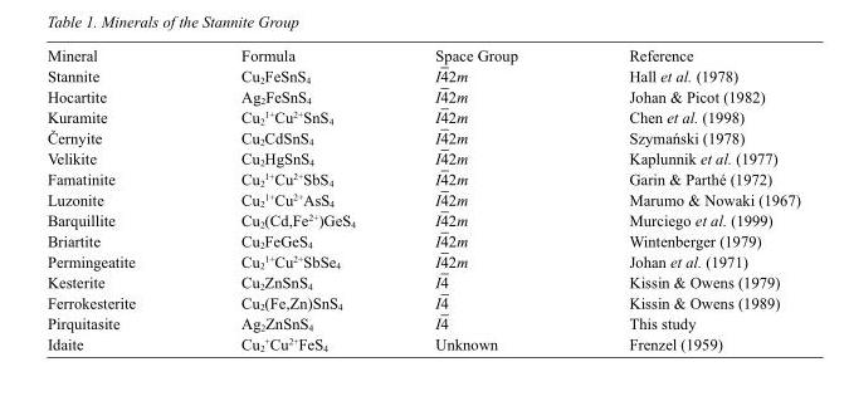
<table><tbody><tr><td>Mineral</td><td>Formula</td><td>Space Group</td><td>Reference</td></tr><tr><td>Stannite</td><td>Cu<sub>2</sub>FeSnS<sub>4</sub></td><td>I42m</td><td>Hall et al. (1978)</td></tr><tr><td>Hocartite</td><td>Ag<sub>2</sub>FeSnS<sub>4</sub></td><td>I42m</td><td>Johan &amp; Picot (1982)</td></tr><tr><td>Kuramite</td><td>Cu<sub>2</sub><sup>1+</sup>Cu<sup>2+</sup>SnS<sub>4</sub></td><td>I42m</td><td>Chen et al. (1998)</td></tr><tr><td>Černyite</td><td>Cu<sub>2</sub>CdSnS<sub>4</sub></td><td>I42m</td><td>Szymański (1978)</td></tr><tr><td>Velikite</td><td>Cu<sub>2</sub>HgSnS<sub>4</sub></td><td>I42m</td><td>Kaplunnik et al. (1977)</td></tr><tr><td>Famatinite</td><td>Cu<sub>2</sub><sup>1+</sup>Cu<sup>2+</sup>SbS<sub>4</sub></td><td>I42m</td><td>Garin &amp; Parthé (1972)</td></tr><tr><td>Luzonite</td><td>Cu<sub>2</sub><sup>1+</sup>Cu<sup>2+</sup>AsS<sub>4</sub></td><td>I42m</td><td>Marumo &amp; Nowaki (1967)</td></tr><tr><td>Barquillite</td><td>Cu<sub>2</sub>(Cd,Fe<sup>2+</sup>)GeS<sub>4</sub></td><td>I42m</td><td>Murciego et al. (1999)</td></tr><tr><td>Briartite</td><td>Cu<sub>2</sub>FeGeS<sub>4</sub></td><td>I42m</td><td>Wintenberger (1979)</td></tr><tr><td>Permingeatite</td><td>Cu<sub>2</sub><sup>1+</sup>Cu<sup>2+</sup>SbSe<sub>4</sub></td><td>I42m</td><td>Johan et al. (1971)</td></tr><tr><td>Kesterite</td><td>Cu<sub>2</sub>ZnSnS<sub>4</sub></td><td>I4</td><td>Kissin &amp; Owens (1979)</td></tr><tr><td>Ferrokesterite</td><td>Cu<sub>2</sub>(Fe,Zn)SnS<sub>4</sub></td><td>I4</td><td>Kissin &amp; Owens (1989)</td></tr><tr><td>Pirquitasite</td><td>Ag<sub>2</sub>ZnSnS<sub>4</sub></td><td>I4</td><td>This study</td></tr><tr><td>Idaite</td><td>Cu<sub>2</sub><sup>+</sup>Cu<sup>2+</sup>FeS<sub>4</sub></td><td>Unknown</td><td>Frenzel (1959)</td></tr></tbody></table>